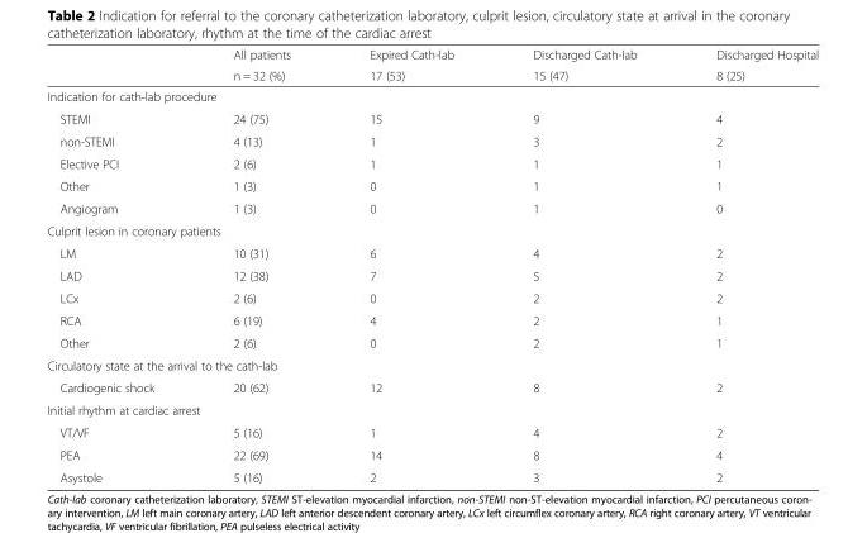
<table><thead><tr><td rowspan="2"></td><td rowspan="2">All patients n = 32 (%)</td><td rowspan="2">Expired Cath-lab 17 (53)</td><td rowspan="2">Discharged Cath-lab 15 (47)</td><td rowspan="2">Discharged Hospital 8 (25)</td></tr><tr></tr></thead><tbody><tr><td colspan="5">Indication for cath-lab procedure</td></tr><tr><td>STEMI</td><td>24 (75)</td><td>15</td><td>9</td><td>4</td></tr><tr><td>non-STEMI</td><td>4 (13)</td><td>1</td><td>3</td><td>2</td></tr><tr><td>Elective PCI</td><td>2 (6)</td><td>1</td><td>1</td><td>1</td></tr><tr><td>Other</td><td>1 (3)</td><td>0</td><td>1</td><td>1</td></tr><tr><td>Angiogram</td><td>1 (3)</td><td>0</td><td>1</td><td>0</td></tr><tr><td colspan="5">Culprit lesion in coronary patients</td></tr><tr><td>LM</td><td>10 (31)</td><td>6</td><td>4</td><td>2</td></tr><tr><td>LAD</td><td>12 (38)</td><td>7</td><td>5</td><td>2</td></tr><tr><td>LCx</td><td>2 (6)</td><td>0</td><td>2</td><td>2</td></tr><tr><td>RCA</td><td>6 (19)</td><td>4</td><td>2</td><td>1</td></tr><tr><td>Other</td><td>2 (6)</td><td>0</td><td>2</td><td>1</td></tr><tr><td colspan="5">Circulatory state at the arrival to the cath-lab</td></tr><tr><td>Cardiogenic shock</td><td>20 (62)</td><td>12</td><td>8</td><td>2</td></tr><tr><td colspan="5">Initial rhythm at cardiac arrest</td></tr><tr><td>VT/VF</td><td>5 (16)</td><td>1</td><td>4</td><td>2</td></tr><tr><td>PEA</td><td>22 (69)</td><td>14</td><td>8</td><td>4</td></tr><tr><td>Asystole</td><td>5 (16)</td><td>2</td><td>3</td><td>2</td></tr></tbody></table>